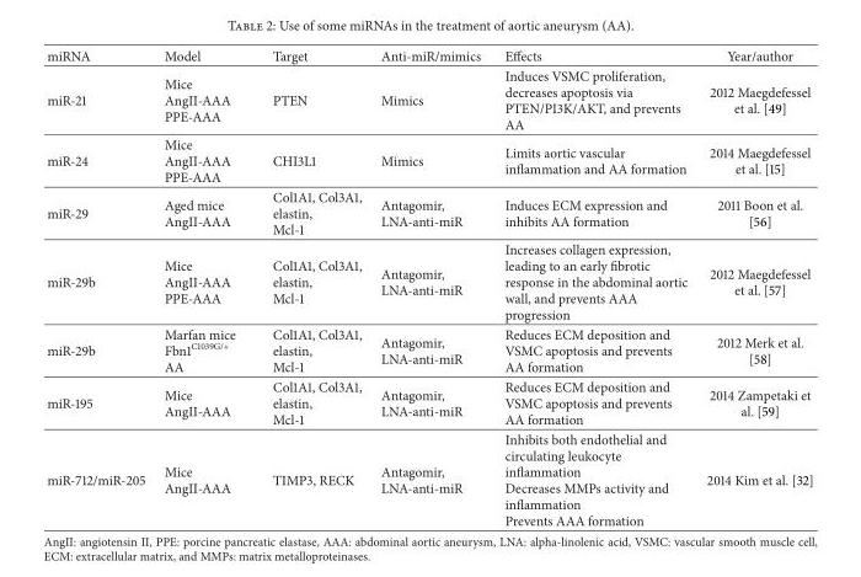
<table><thead><tr><td>miRNA</td><td>Model</td><td>Target</td><td>Anti-miR/mimics</td><td>Effects</td><td>Year/author</td></tr></thead><tbody><tr><td>miR-21</td><td>Mice AngII-AAA PPE-AAA</td><td>PTEN</td><td>Mimics</td><td>Induces VSMC proliferation, decreases apoptosis via PTEN/PI3K/AKT, and prevents AA</td><td>2012 Maegdefessel et al. [49]</td></tr><tr><td>miR-24</td><td>Mice AngII-AAA PPE-AAA</td><td>CHI3L1</td><td>Mimics</td><td>Limits aortic vascular inflammation and AA formation</td><td>2014 Maegdefessel et al. [15]</td></tr><tr><td>miR-29</td><td>Aged mice AngII-AAA</td><td>Col1A1, Col3A1, elastin, Mcl-1</td><td>Antagomir, LNA-anti-miR</td><td>Induces ECM expression and inhibits AA formation</td><td>2011 Boon et al. [56]</td></tr><tr><td>miR-29b</td><td>Mice AngII-AAA PPE-AAA</td><td>Col1A1, Col3A1, elastin, Mcl-1</td><td>Antagomir, LNA-anti-miR</td><td>Increases collagen expression, leading to an early fibrotic response in the abdominal aortic wall, and prevents AAA progression</td><td>2012 Maegdefessel et al. [57]</td></tr><tr><td>miR-29b</td><td>Marfan mice Fbn1<sup>C1039G/+</sup> AA</td><td>Col1A1, Col3A1, elastin, Mcl-1</td><td>Antagomir, LNA-anti-miR</td><td>Reduces ECM deposition and VSMC apoptosis and prevents AA formation</td><td>2012 Merk et al. [58]</td></tr><tr><td>miR-195</td><td>Mice AngII-AAA</td><td>Col1A1, Col3A1, elastin, Mcl-1</td><td>Antagomir, LNA-anti-miR</td><td>Reduces ECM deposition and VSMC apoptosis and prevents AA formation</td><td>2014 Zampetaki et al. [59]</td></tr><tr><td>miR-712/miR-205</td><td>Mice AngII-AAA</td><td>TIMP3, RECK</td><td>Antagomir, LNA-anti-miR</td><td>Inhibits both endothelial and circulating leukocyte inflammation Decreases MMPs activity and inflammation Prevents AAA formation</td><td>2014 Kim et al. [32]</td></tr></tbody></table>